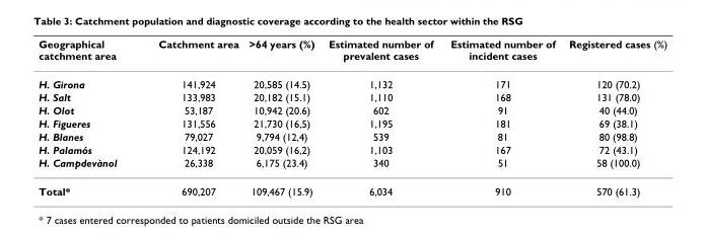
<table><thead><tr><td>Geographical catchment area</td><td>Catchment area</td><td>&gt;64 years (%)</td><td>Estimated number of prevalent cases</td><td>Estimated number of incident cases</td><td>Registered cases (%)</td></tr></thead><tbody><tr><td>H. Girona</td><td>141,924</td><td>20,585 (14.5)</td><td>1,132</td><td>171</td><td>120 (70.2)</td></tr><tr><td>H. Salt</td><td>133,983</td><td>20,182 (15.1)</td><td>1,110</td><td>168</td><td>131 (78.0)</td></tr><tr><td>H. Olot</td><td>53,187</td><td>10,942 (20.6)</td><td>602</td><td>91</td><td>40 (44.0)</td></tr><tr><td>H. Figueres</td><td>131,556</td><td>21,730 (16,5)</td><td>1,195</td><td>181</td><td>69 (38.1)</td></tr><tr><td>H. Blanes</td><td>79,027</td><td>9,794 (12,4)</td><td>539</td><td>81</td><td>80 (98.8)</td></tr><tr><td>H. Palamós</td><td>124,192</td><td>20,059 (16,2)</td><td>1,103</td><td>167</td><td>72 (43.1)</td></tr><tr><td>H. Campdevànol</td><td>26,338</td><td>6,175 (23.4)</td><td>340</td><td>51</td><td>58 (100.0)</td></tr><tr><td>Total*</td><td>690,207</td><td>109,467 (15.9)</td><td>6,034</td><td>910</td><td>570 (61.3)</td></tr></tbody></table>